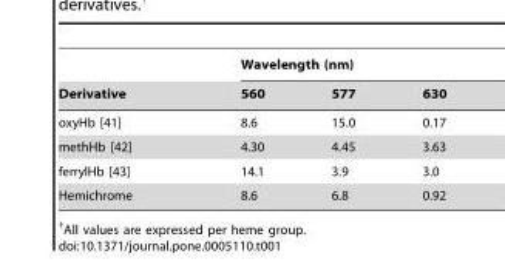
<table><thead><tr><td rowspan="2">Derivative</td><td colspan="3">Wavelength (nm)</td></tr><tr><td>560</td><td>577</td><td>630</td></tr></thead><tbody><tr><td>oxyHb [41]</td><td>8.6</td><td>15.0</td><td>0.17</td></tr><tr><td>methHb [42]</td><td>4.30</td><td>4.45</td><td>3.63</td></tr><tr><td>ferrylHb [43]</td><td>14.1</td><td>3.9</td><td>3.0</td></tr><tr><td>Hemichrome</td><td>8.6</td><td>6.8</td><td>0.92</td></tr></tbody></table>